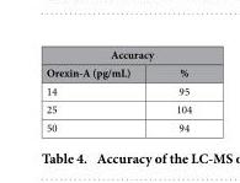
<table><thead><tr><td colspan="2">Accuracy</td></tr><tr><td>Orexin-A (pg/mL)</td><td>%</td></tr></thead><tbody><tr><td>14</td><td>95</td></tr><tr><td>25</td><td>104</td></tr><tr><td>50</td><td>94</td></tr></tbody></table>